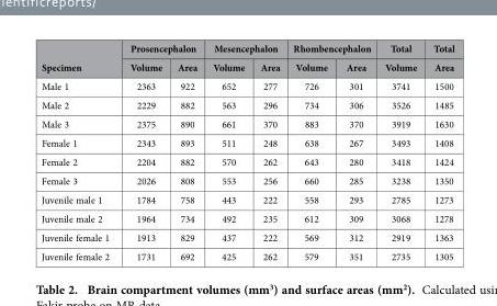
<table><thead><tr><td rowspan="2">Specimen</td><td colspan="2">Prosencephalon</td><td colspan="2">Mesencephalon</td><td colspan="2">Rhombencephalon</td><td rowspan="2">Total Volume</td><td rowspan="2">Total Area</td></tr><tr><td>Volume</td><td>Area</td><td>Volume</td><td>Area</td><td>Volume</td><td>Area</td></tr></thead><tbody><tr><td>Male 1</td><td>2363</td><td>922</td><td>652</td><td>277</td><td>726</td><td>301</td><td>3741</td><td>1500</td></tr><tr><td>Male 2</td><td>2229</td><td>882</td><td>563</td><td>296</td><td>734</td><td>306</td><td>3526</td><td>1485</td></tr><tr><td>Male 3</td><td>2375</td><td>890</td><td>661</td><td>370</td><td>883</td><td>370</td><td>3919</td><td>1630</td></tr><tr><td>Female 1</td><td>2343</td><td>893</td><td>511</td><td>248</td><td>638</td><td>267</td><td>3493</td><td>1408</td></tr><tr><td>Female 2</td><td>2204</td><td>882</td><td>570</td><td>262</td><td>643</td><td>280</td><td>3418</td><td>1424</td></tr><tr><td>Female 3</td><td>2026</td><td>808</td><td>553</td><td>256</td><td>660</td><td>285</td><td>3238</td><td>1350</td></tr><tr><td>Juvenile male 1</td><td>1784</td><td>758</td><td>443</td><td>222</td><td>558</td><td>293</td><td>2785</td><td>1273</td></tr><tr><td>Juvenile male 2</td><td>1964</td><td>734</td><td>492</td><td>235</td><td>612</td><td>309</td><td>3068</td><td>1278</td></tr><tr><td>Juvenile female 1</td><td>1913</td><td>829</td><td>437</td><td>222</td><td>569</td><td>312</td><td>2919</td><td>1363</td></tr><tr><td>Juvenile female 2</td><td>1731</td><td>692</td><td>425</td><td>262</td><td>579</td><td>351</td><td>2735</td><td>1305</td></tr></tbody></table>